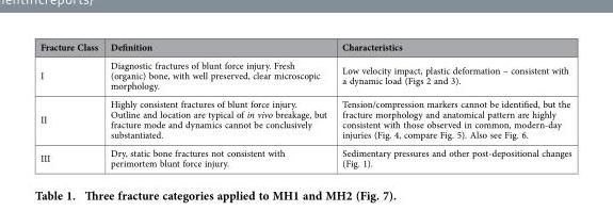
<table><thead><tr><td>Fracture Class</td><td>Definition</td><td>Characteristics</td></tr></thead><tbody><tr><td>I</td><td>Diagnostic fractures of blunt force injury. Fresh (organic) bone, with well preserved, clear microscopic morphology.</td><td>Low velocity impact, plastic deformation – consistent with a dynamic load (Figs 2 and 3).</td></tr><tr><td>II</td><td>Highly consistent fractures of blunt force injury. Outline and location are typical of in vivo breakage, but fracture mode and dynamics cannot be conclusively substantiated.</td><td>Tension/compression markers cannot be identified, but the fracture morphology and anatomical pattern are highly consistent with those observed in common, modern-day injuries (Fig. 4, compare Fig. 5). Also see Fig. 6.</td></tr><tr><td>III</td><td>Dry, static bone fractures not consistent with perimortem blunt force injury.</td><td>Sedimentary pressures and other post-depositional changes (Fig. 1).</td></tr></tbody></table>